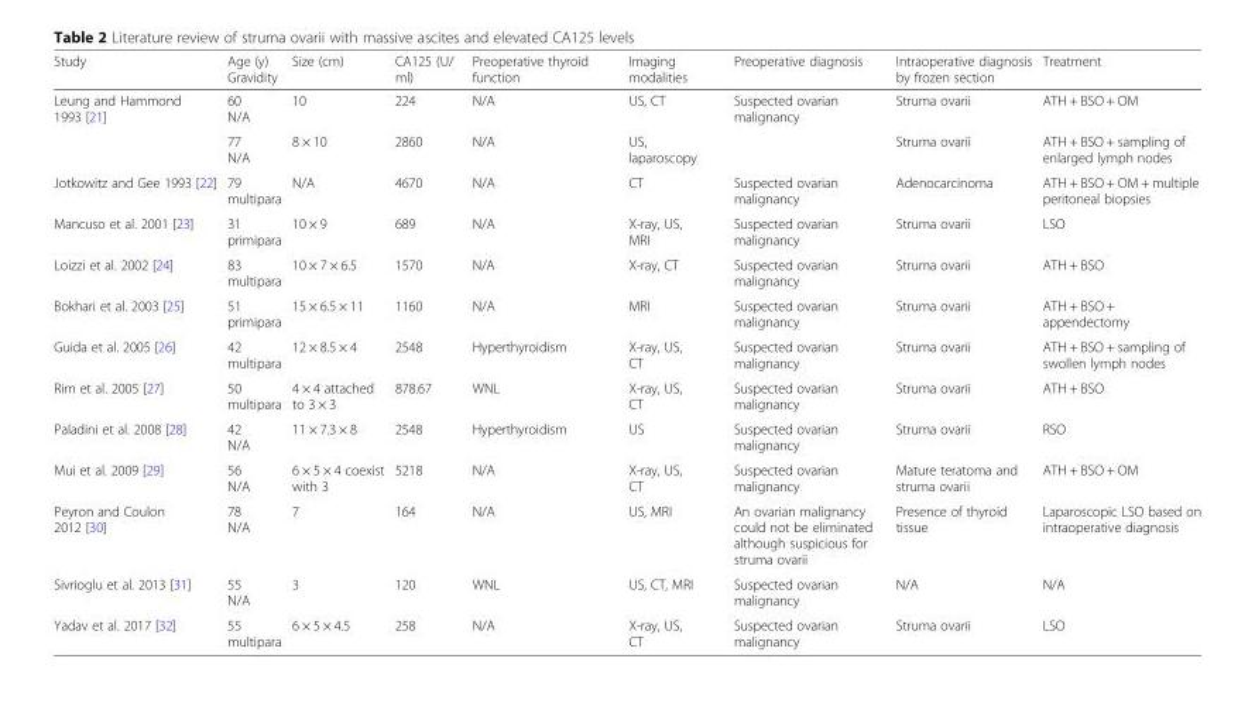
<table><thead><tr><td>Study</td><td>Age (y) Gravidity</td><td>Size (cm)</td><td>CA125 (U/ ml)</td><td>Preoperative thyroid function</td><td>Imaging modalities</td><td>Preoperative diagnosis</td><td>Intraoperative diagnosis by frozen section</td><td>Treatment</td></tr></thead><tbody><tr><td rowspan="2">Leung and Hammond 1993 [21]</td><td>60 N/A</td><td>10</td><td>224</td><td>N/A</td><td>US, CT</td><td rowspan="2">Suspected ovarian malignancy</td><td>Struma ovarii</td><td>ATH + BSO + OM</td></tr><tr><td>77 N/A</td><td>8 × 10</td><td>2860</td><td>N/A</td><td>US, laparoscopy</td><td>Struma ovarii</td><td>ATH + BSO + sampling of enlarged lymph nodes</td></tr><tr><td>Jotkowitz and Gee 1993 [22]</td><td>79 multipara</td><td>N/A</td><td>4670</td><td>N/A</td><td>CT</td><td>Suspected ovarian malignancy</td><td>Adenocarcinoma</td><td>ATH + BSO + OM + multiple peritoneal biopsies</td></tr><tr><td>Mancuso et al. 2001 [23]</td><td>31 primipara</td><td>10 × 9</td><td>689</td><td>N/A</td><td>X-ray, US, MRI</td><td>Suspected ovarian malignancy</td><td>Struma ovarii</td><td>LSO</td></tr><tr><td>Loizzi et al. 2002 [24]</td><td>83 multipara</td><td>10 × 7 × 6.5</td><td>1570</td><td>N/A</td><td>X-ray, CT</td><td>Suspected ovarian malignancy</td><td>Struma ovarii</td><td>ATH + BSO</td></tr><tr><td>Bokhari et al. 2003 [25]</td><td>51 primipara</td><td>15 × 6.5 × 11</td><td>1160</td><td>N/A</td><td>MRI</td><td>Suspected ovarian malignancy</td><td>Struma ovarii</td><td>ATH + BSO + appendectomy</td></tr><tr><td>Guida et al. 2005 [26]</td><td>42 multipara</td><td>12 × 8.5 × 4</td><td>2548</td><td>Hyperthyroidism</td><td>X-ray, US, CT</td><td>Suspected ovarian malignancy</td><td>Struma ovarii</td><td>ATH + BSO + sampling of swollen lymph nodes</td></tr><tr><td>Rim et al. 2005 [27]</td><td>50 multipara</td><td>4 × 4 attached to 3 × 3</td><td>878.67</td><td>WNL</td><td>X-ray, US, CT</td><td>Suspected ovarian malignancy</td><td>Struma ovarii</td><td>ATH + BSO</td></tr><tr><td>Paladini et al. 2008 [28]</td><td>42 N/A</td><td>11 × 7.3 × 8</td><td>2548</td><td>Hyperthyroidism</td><td>US</td><td>Suspected ovarian malignancy</td><td>Struma ovarii</td><td>RSO</td></tr><tr><td>Mui et al. 2009 [29]</td><td>56 N/A</td><td>6 × 5 × 4 coexist with 3</td><td>5218</td><td>N/A</td><td>X-ray, US, CT</td><td>Suspected ovarian malignancy</td><td>Mature teratoma and struma ovarii</td><td>ATH + BSO + OM</td></tr><tr><td>Peyron and Coulon 2012 [30]</td><td>78 N/A</td><td>7</td><td>164</td><td>N/A</td><td>US, MRI</td><td>An ovarian malignancy could not be eliminated although suspicious for struma ovarii</td><td>Presence of thyroid tissue</td><td>Laparoscopic LSO based on intraoperative diagnosis</td></tr><tr><td>Sivrioglu et al. 2013 [31]</td><td>55 N/A</td><td>3</td><td>120</td><td>WNL</td><td>US, CT, MRI</td><td>Suspected ovarian malignancy</td><td>N/A</td><td>N/A</td></tr><tr><td>Yadav et al. 2017 [32]</td><td>55 multipara</td><td>6 × 5 × 4.5</td><td>258</td><td>N/A</td><td>X-ray, US, CT</td><td>Suspected ovarian malignancy</td><td>Struma ovarii</td><td>LSO</td></tr></tbody></table>